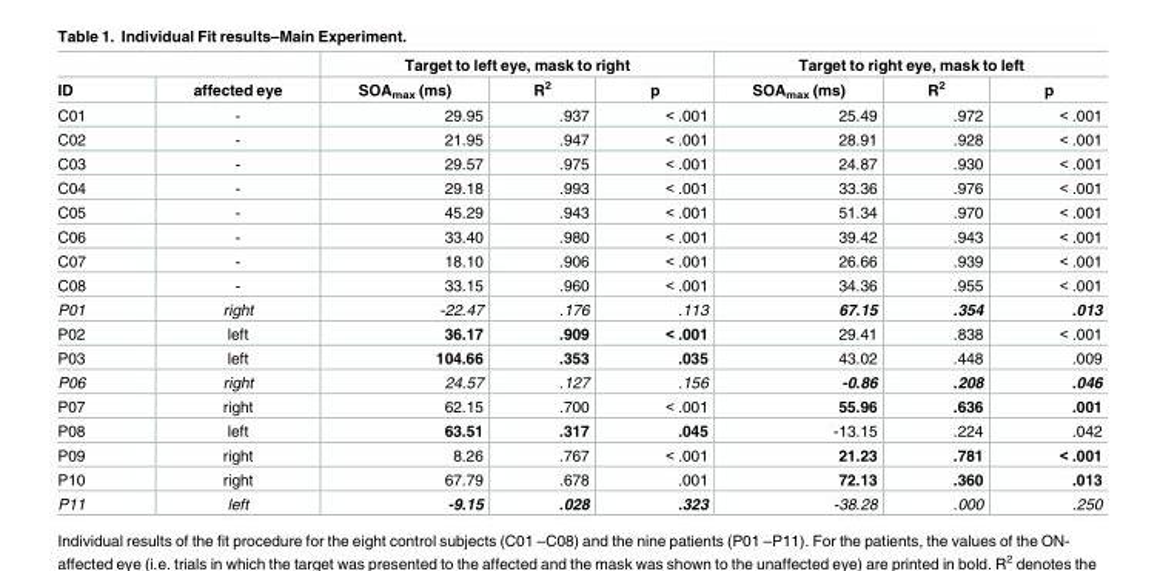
<table><thead><tr><td rowspan="2">ID</td><td rowspan="2">affected eye</td><td colspan="3">Target to left eye, mask to right</td><td colspan="3">Target to right eye, mask to left</td></tr><tr><td>SOA<sub>max</sub> (ms)</td><td>R<sup>2</sup></td><td>p</td><td>SOA<sub>max</sub> (ms)</td><td>R<sup>2</sup></td><td>p</td></tr></thead><tbody><tr><td>C01</td><td>-</td><td>29.95</td><td>.937</td><td>&lt; .001</td><td>25.49</td><td>.972</td><td>&lt; .001</td></tr><tr><td>C02</td><td>-</td><td>21.95</td><td>.947</td><td>&lt; .001</td><td>28.91</td><td>.928</td><td>&lt; .001</td></tr><tr><td>C03</td><td>-</td><td>29.57</td><td>.975</td><td>&lt; .001</td><td>24.87</td><td>.930</td><td>&lt; .001</td></tr><tr><td>C04</td><td>-</td><td>29.18</td><td>.993</td><td>&lt; .001</td><td>33.36</td><td>.976</td><td>&lt; .001</td></tr><tr><td>C05</td><td>-</td><td>45.29</td><td>.943</td><td>&lt; .001</td><td>51.34</td><td>.970</td><td>&lt; .001</td></tr><tr><td>C06</td><td>-</td><td>33.40</td><td>.980</td><td>&lt; .001</td><td>39.42</td><td>.943</td><td>&lt; .001</td></tr><tr><td>C07</td><td>-</td><td>18.10</td><td>.906</td><td>&lt; .001</td><td>26.66</td><td>.939</td><td>&lt; .001</td></tr><tr><td>C08</td><td>-</td><td>33.15</td><td>.960</td><td>&lt; .001</td><td>34.36</td><td>.955</td><td>&lt; .001</td></tr><tr><td>P01</td><td>right</td><td>-22.47</td><td>.176</td><td>.113</td><td>67.15</td><td>.354</td><td>.013</td></tr><tr><td>P02</td><td>left</td><td>36.17</td><td>.909</td><td>&lt; .001</td><td>29.41</td><td>.838</td><td>&lt; .001</td></tr><tr><td>P03</td><td>left</td><td>104.66</td><td>.353</td><td>.035</td><td>43.02</td><td>.448</td><td>.009</td></tr><tr><td>P06</td><td>right</td><td>24.57</td><td>.127</td><td>.156</td><td>-0.86</td><td>.208</td><td>.046</td></tr><tr><td>P07</td><td>right</td><td>62.15</td><td>.700</td><td>&lt; .001</td><td>55.96</td><td>.636</td><td>.001</td></tr><tr><td>P08</td><td>left</td><td>63.51</td><td>.317</td><td>.045</td><td>-13.15</td><td>.224</td><td>.042</td></tr><tr><td>P09</td><td>right</td><td>8.26</td><td>.767</td><td>&lt; .001</td><td>21.23</td><td>.781</td><td>&lt; .001</td></tr><tr><td>P10</td><td>right</td><td>67.79</td><td>.678</td><td>.001</td><td>72.13</td><td>.360</td><td>.013</td></tr><tr><td>P11</td><td>left</td><td>-9.15</td><td>.028</td><td>.323</td><td>-38.28</td><td>.000</td><td>.250</td></tr></tbody></table>